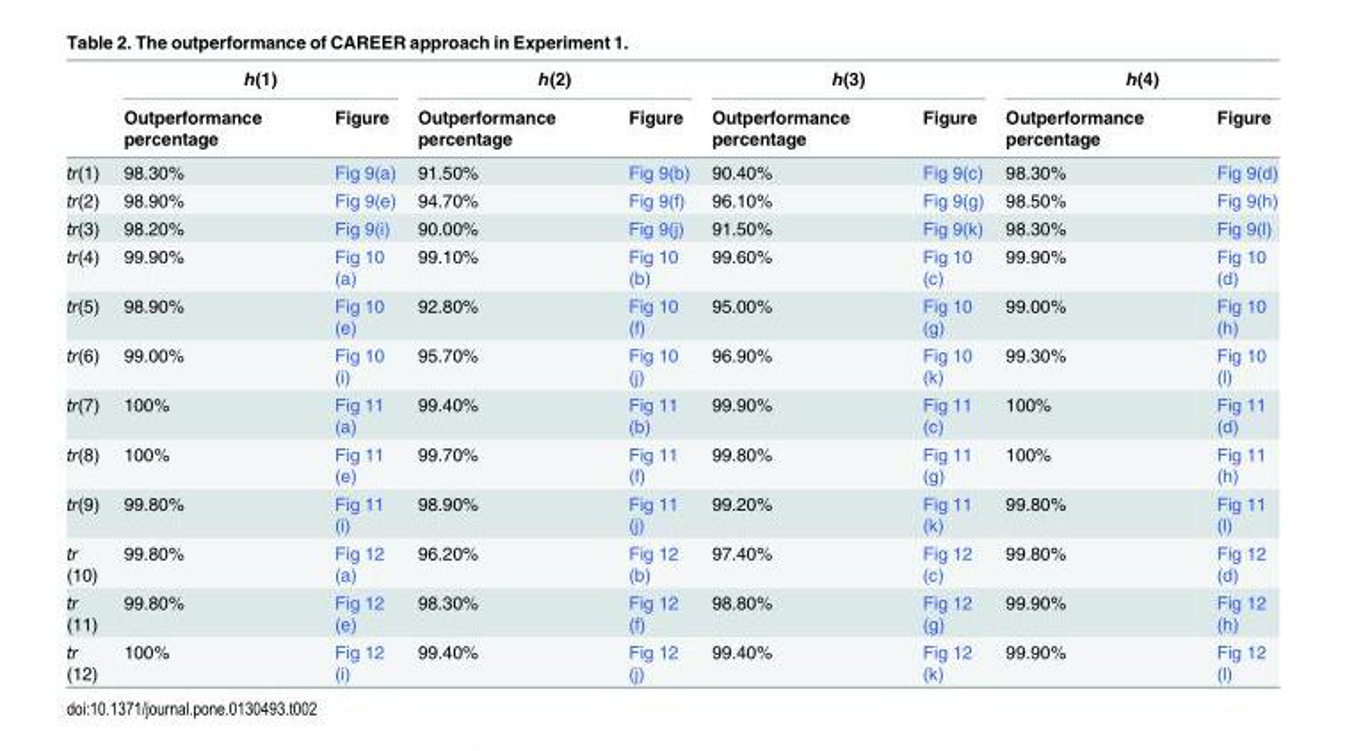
<table><thead><tr><td rowspan="2"></td><td colspan="2">h(1)</td><td colspan="2">h(2)</td><td colspan="2">h(3)</td><td colspan="2">h(4)</td></tr><tr><td>Outperformance percentage</td><td>Figure</td><td>Outperformance percentage</td><td>Figure</td><td>Outperformance percentage</td><td>Figure</td><td>Outperformance percentage</td><td>Figure</td></tr></thead><tbody><tr><td>tr(1)</td><td>98.30%</td><td>Fig 9(a)</td><td>91.50%</td><td>Fig 9(b)</td><td>90.40%</td><td>Fig 9(c)</td><td>98.30%</td><td>Fig 9(d)</td></tr><tr><td>tr(2)</td><td>98.90%</td><td>Fig 9(e)</td><td>94.70%</td><td>Fig 9(f)</td><td>96.10%</td><td>Fig 9(g)</td><td>98.50%</td><td>Fig 9(h)</td></tr><tr><td>tr(3)</td><td>98.20%</td><td>Fig 9(i)</td><td>90.00%</td><td>Fig 9(j)</td><td>91.50%</td><td>Fig 9(k)</td><td>98.30%</td><td>Fig 9(l)</td></tr><tr><td>tr(4)</td><td>99.90%</td><td>Fig 10 (a)</td><td>99.10%</td><td>Fig 10 (b)</td><td>99.60%</td><td>Fig 10 (c)</td><td>99.90%</td><td>Fig 10 (d)</td></tr><tr><td>tr(5)</td><td>98.90%</td><td>Fig 10 (e)</td><td>92.80%</td><td>Fig 10 (f)</td><td>95.00%</td><td>Fig 10 (g)</td><td>99.00%</td><td>Fig 10 (h)</td></tr><tr><td>tr(6)</td><td>99.00%</td><td>Fig 10 (i)</td><td>95.70%</td><td>Fig 10 (j)</td><td>96.90%</td><td>Fig 10 (k)</td><td>99.30%</td><td>Fig 10 (l)</td></tr><tr><td>tr(7)</td><td>100%</td><td>Fig 11 (a)</td><td>99.40%</td><td>Fig 11 (b)</td><td>99.90%</td><td>Fig 11 (c)</td><td>100%</td><td>Fig 11 (d)</td></tr><tr><td>tr(8)</td><td>100%</td><td>Fig 11 (e)</td><td>99.70%</td><td>Fig 11 (f)</td><td>99.80%</td><td>Fig 11 (g)</td><td>100%</td><td>Fig 11 (h)</td></tr><tr><td>tr(9)</td><td>99.80%</td><td>Fig 11 (i)</td><td>98.90%</td><td>Fig 11 (j)</td><td>99.20%</td><td>Fig 11 (k)</td><td>99.80%</td><td>Fig 11 (l)</td></tr><tr><td>tr (10)</td><td>99.80%</td><td>Fig 12 (a)</td><td>96.20%</td><td>Fig 12 (b)</td><td>97.40%</td><td>Fig 12 (c)</td><td>99.80%</td><td>Fig 12 (d)</td></tr><tr><td>tr (11)</td><td>99.80%</td><td>Fig 12 (e)</td><td>98.30%</td><td>Fig 12 (f)</td><td>98.80%</td><td>Fig 12 (g)</td><td>99.90%</td><td>Fig 12 (h)</td></tr><tr><td>tr (12)</td><td>100%</td><td>Fig 12 (i)</td><td>99.40%</td><td>Fig 12 (j)</td><td>99.40%</td><td>Fig 12 (k)</td><td>99.90%</td><td>Fig 12 (l)</td></tr></tbody></table>